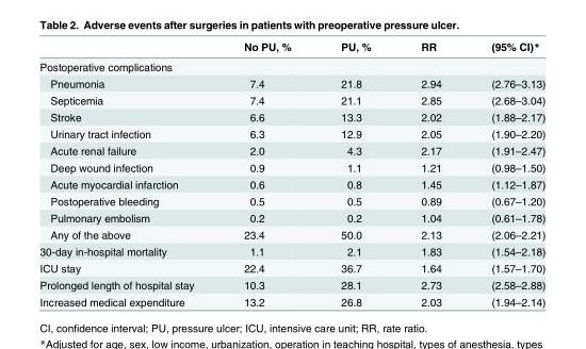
<table><thead><tr><td></td><td>No PU, %</td><td>PU, %</td><td>RR</td><td>(95% CI)*</td></tr></thead><tbody><tr><td colspan="5">Postoperative complications</td></tr><tr><td>Pneumonia</td><td>7.4</td><td>21.8</td><td>2.94</td><td>(2.76–3.13)</td></tr><tr><td>Septicemia</td><td>7.4</td><td>21.1</td><td>2.85</td><td>(2.68–3.04)</td></tr><tr><td>Stroke</td><td>6.6</td><td>13.3</td><td>2.02</td><td>(1.88–2.17)</td></tr><tr><td>Urinary tract infection</td><td>6.3</td><td>12.9</td><td>2.05</td><td>(1.90–2.20)</td></tr><tr><td>Acute renal failure</td><td>2.0</td><td>4.3</td><td>2.17</td><td>(1.91–2.47)</td></tr><tr><td>Deep wound infection</td><td>0.9</td><td>1.1</td><td>1.21</td><td>(0.98–1.50)</td></tr><tr><td>Acute myocardial infarction</td><td>0.6</td><td>0.8</td><td>1.45</td><td>(1.12–1.87)</td></tr><tr><td>Postoperative bleeding</td><td>0.5</td><td>0.5</td><td>0.89</td><td>(0.67–1.20)</td></tr><tr><td>Pulmonary embolism</td><td>0.2</td><td>0.2</td><td>1.04</td><td>(0.61–1.78)</td></tr><tr><td>Any of the above</td><td>23.4</td><td>50.0</td><td>2.13</td><td>(2.06–2.21)</td></tr><tr><td>30-day in-hospital mortality</td><td>1.1</td><td>2.1</td><td>1.83</td><td>(1.54–2.18)</td></tr><tr><td>ICU stay</td><td>22.4</td><td>36.7</td><td>1.64</td><td>(1.57–1.70)</td></tr><tr><td>Prolonged length of hospital stay</td><td>10.3</td><td>28.1</td><td>2.73</td><td>(2.58–2.88)</td></tr><tr><td>Increased medical expenditure</td><td>13.2</td><td>26.8</td><td>2.03</td><td>(1.94–2.14)</td></tr></tbody></table>